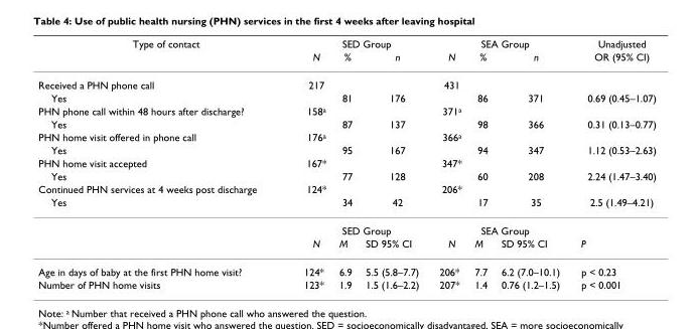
<table><thead><tr><td rowspan="2">Type of contact</td><td colspan="3">SED Group</td><td colspan="3">SEA Group</td><td rowspan="2">Unadjusted OR (95% CI)</td></tr><tr><td>N</td><td>%</td><td>n</td><td>N</td><td>%</td><td>n</td></tr></thead><tbody><tr><td>Received a PHN phone call</td><td>217</td><td></td><td></td><td>431</td><td></td><td></td><td></td></tr><tr><td>Yes</td><td></td><td>81</td><td>176</td><td></td><td>86</td><td>371</td><td>0.69 (0.45–1.07)</td></tr><tr><td>PHN phone call within 48 hours after discharge?</td><td>158<sup>a</sup></td><td></td><td></td><td>371<sup>a</sup></td><td></td><td></td><td></td></tr><tr><td>Yes</td><td></td><td>87</td><td>137</td><td></td><td>98</td><td>366</td><td>0.31 (0.13–0.77)</td></tr><tr><td>PHN home visit offered in phone call</td><td>176<sup>a</sup></td><td></td><td></td><td>366<sup>a</sup></td><td></td><td></td><td></td></tr><tr><td>Yes</td><td></td><td>95</td><td>167</td><td></td><td>94</td><td>347</td><td>1.12 (0.53–2.63)</td></tr><tr><td>PHN home visit accepted</td><td>167*</td><td></td><td></td><td>347*</td><td></td><td></td><td></td></tr><tr><td>Yes</td><td></td><td>77</td><td>128</td><td></td><td>60</td><td>208</td><td>2.24 (1.47–3.40)</td></tr><tr><td>Continued PHN services at 4 weeks post discharge</td><td>124*</td><td></td><td></td><td>206*</td><td></td><td></td><td></td></tr><tr><td rowspan="3">Yes</td><td></td><td>34</td><td>42</td><td></td><td>17</td><td>35</td><td>2.5 (1.49–4.21)</td></tr><tr><td colspan="3">SED Group</td><td colspan="3">SEA Group</td><td></td></tr><tr><td>N</td><td>M</td><td>SD 95% CI</td><td>N</td><td>M</td><td>SD 95% CI</td><td>P</td></tr><tr><td>Age in days of baby at the first PHN home visit?</td><td>124*</td><td>6.9</td><td>5.5 (5.8–7.7)</td><td>206*</td><td>7.7</td><td>6.2 (7.0–10.1)</td><td>p &lt; 0.23</td></tr><tr><td>Number of PHN home visits</td><td>123*</td><td>1.9</td><td>1.5 (1.6–2.2)</td><td>207*</td><td>1.4</td><td>0.76 (1.2–1.5)</td><td>p &lt; 0.001</td></tr></tbody></table>